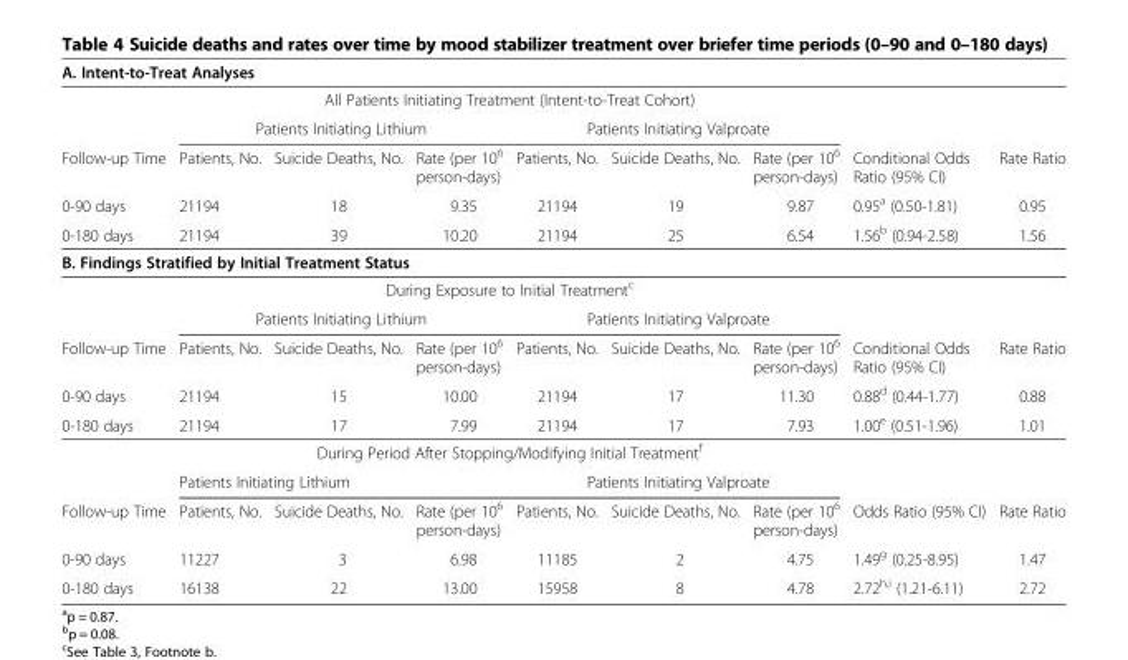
<table><tbody><tr><td colspan="9">A. Intent-to-Treat Analyses</td></tr><tr><td></td><td colspan="6">All Patients Initiating Treatment (Intent-to-Treat Cohort)</td><td></td><td></td></tr><tr><td></td><td colspan="3">Patients Initiating Lithium</td><td colspan="3">Patients Initiating Valproate</td><td></td><td></td></tr><tr><td>Follow-up Time</td><td>Patients, No.</td><td>Suicide Deaths, No.</td><td>Rate (per 10<sup>6</sup> person-days)</td><td>Patients, No.</td><td>Suicide Deaths, No.</td><td>Rate (per 10<sup>6</sup> person-days)</td><td>Conditional Odds Ratio (95% CI)</td><td>Rate Ratio</td></tr><tr><td>0-90 days</td><td>21194</td><td>18</td><td>9.35</td><td>21194</td><td>19</td><td>9.87</td><td>0.95<sup>a</sup> (0.50-1.81)</td><td>0.95</td></tr><tr><td>0-180 days</td><td>21194</td><td>39</td><td>10.20</td><td>21194</td><td>25</td><td>6.54</td><td>1.56<sup>b</sup> (0.94-2.58)</td><td>1.56</td></tr><tr><td colspan="9">B. Findings Stratified by Initial Treatment Status</td></tr><tr><td></td><td colspan="6">During Exposure to Initial Treatment<sup>c</sup></td><td></td><td></td></tr><tr><td></td><td colspan="3">Patients Initiating Lithium</td><td colspan="3">Patients Initiating Valproate</td><td></td><td></td></tr><tr><td>Follow-up Time</td><td>Patients, No.</td><td>Suicide Deaths, No.</td><td>Rate (per 10<sup>6</sup> person-days)</td><td>Patients, No.</td><td>Suicide Deaths, No.</td><td>Rate (per 10<sup>6</sup> person-days)</td><td>Conditional Odds Ratio (95% CI)</td><td>Rate Ratio</td></tr><tr><td>0-90 days</td><td>21194</td><td>15</td><td>10.00</td><td>21194</td><td>17</td><td>11.30</td><td>0.88<sup>d</sup> (0.44-1.77)</td><td>0.88</td></tr><tr><td rowspan="3">0-180 days</td><td>21194</td><td>17</td><td>7.99</td><td>21194</td><td>17</td><td>7.93</td><td>1.00<sup>e</sup> (0.51-1.96)</td><td>1.01</td></tr><tr><td colspan="6">During Period After Stopping/Modifying Initial Treatment<sup>f</sup></td><td></td><td></td></tr><tr><td colspan="3">Patients Initiating Lithium</td><td colspan="3">Patients Initiating Valproate</td><td></td><td></td></tr><tr><td>Follow-up Time</td><td>Patients, No.</td><td>Suicide Deaths, No.</td><td>Rate (per 10<sup>6</sup> person-days)</td><td>Patients, No.</td><td>Suicide Deaths, No.</td><td>Rate (per 10<sup>6</sup> person-days)</td><td>Odds Ratio (95% CI)</td><td>Rate Ratio</td></tr><tr><td>0-90 days</td><td>11227</td><td>3</td><td>6.98</td><td>11185</td><td>2</td><td>4.75</td><td>1.49<sup>g</sup> (0.25-8.95)</td><td>1.47</td></tr><tr><td>0-180 days</td><td>16138</td><td>22</td><td>13.00</td><td>15958</td><td>8</td><td>4.78</td><td>2.72<sup>h,i</sup> (1.21-6.11)</td><td>2.72</td></tr></tbody></table>